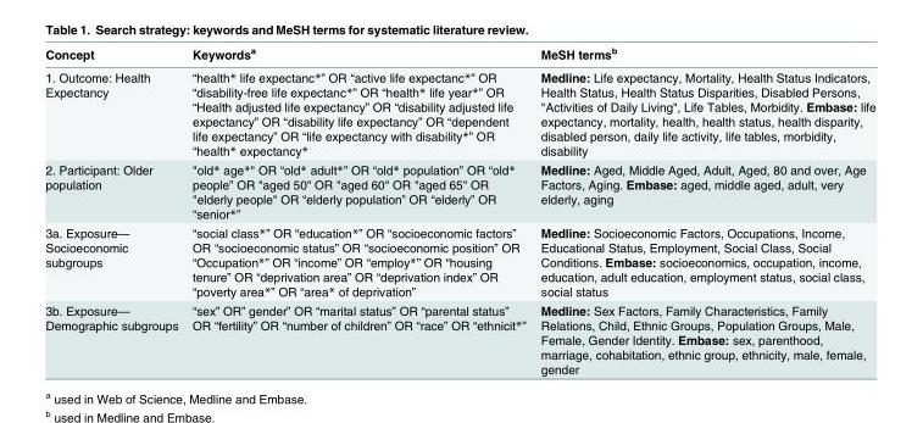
<table><thead><tr><td>Concept</td><td>Keywords<sup>a</sup></td><td>MeSH termsb</td></tr></thead><tbody><tr><td>1. Outcome: Health Expectancy</td><td>“health* life expectanc*” OR “active life expectanc*” OR “disability-free life expectanc*” OR “health* life year*” OR “Health adjusted life expectancy” OR “disability adjusted life expectancy” OR “disability life expectancy” OR “dependent life expectancy” OR “life expectancy with disability*” OR “health* expectancy*</td><td>Medline: Life expectancy, Mortality, Health Status Indicators, Health Status, Health Status Disparities, Disabled Persons, &quot;Activities of Daily Living&quot;, Life Tables, Morbidity. Embase: life expectancy, mortality, health, health status, health disparity, disabled person, daily life activity, life tables, morbidity, disability</td></tr><tr><td>2. Participant: Older population</td><td>&quot;old* age*&quot; OR “old* adult*” OR “old* population” OR “old* people” OR &quot;aged 50&quot; OR &quot;aged 60&quot; OR &quot;aged 65&quot; OR &quot;elderly people&quot; OR “elderly population” OR “elderly” OR “senior*”</td><td>Medline: Aged, Middle Aged, Adult, Aged, 80 and over, Age Factors, Aging. Embase: aged, middle aged, adult, very elderly, aging</td></tr><tr><td>3a. Exposure— Socioeconomic subgroups</td><td>“social class*” OR “education*” OR “socioeconomic factors” OR “socioeconomic status” OR “socioeconomic position” OR “Occupation*” OR “income” OR “employ*” OR “housing tenure” OR “deprivation area” OR “deprivation index” OR “poverty area*” OR “area* of deprivation”</td><td>Medline: Socioeconomic Factors, Occupations, Income, Educational Status, Employment, Social Class, Social Conditions. Embase: socioeconomics, occupation, income, education, adult education, employment status, social class, social status</td></tr><tr><td>3b. Exposure— Demographic subgroups</td><td>“sex” OR” gender” OR “marital status” OR “parental status” OR “fertility” OR “number of children” OR “race” OR “ethnicit*”</td><td>Medline: Sex Factors, Family Characteristics, Family Relations, Child, Ethnic Groups, Population Groups, Male, Female, Gender Identity. Embase: sex, parenthood, marriage, cohabitation, ethnic group, ethnicity, male, female, gender</td></tr></tbody></table>